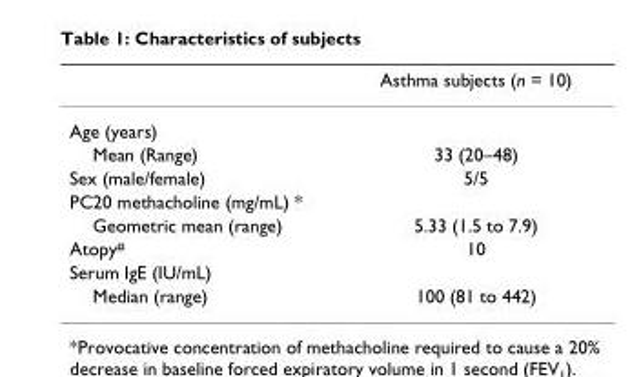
<table><thead><tr><td></td><td>Asthma subjects (n = 10)</td></tr></thead><tbody><tr><td colspan="2">Age (years)</td></tr><tr><td>Mean (Range)</td><td>33 (20–48)</td></tr><tr><td>Sex (male/female)</td><td>5/5</td></tr><tr><td colspan="2">PC20 methacholine (mg/mL) *</td></tr><tr><td>Geometric mean (range)</td><td>5.33 (1.5 to 7.9)</td></tr><tr><td>Atopy<sup>#</sup></td><td>10</td></tr><tr><td colspan="2">Serum IgE (IU/mL)</td></tr><tr><td>Median (range)</td><td>100 (81 to 442)</td></tr></tbody></table>